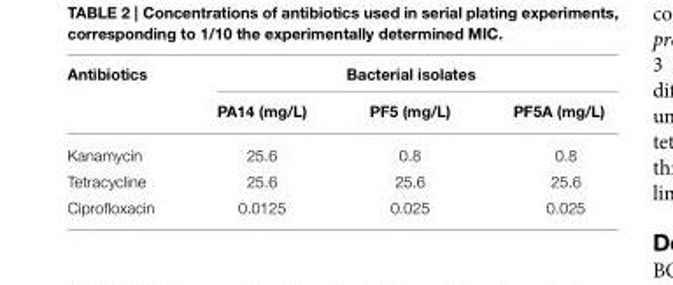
<table><thead><tr><td rowspan="2">Antibiotics</td><td colspan="3">Bacterial isolates</td></tr><tr><td>PA14 (mg/L)</td><td>PF5 (mg/L)</td><td>PF5A (mg/L)</td></tr></thead><tbody><tr><td>Kanamycin</td><td>25.6</td><td>0.8</td><td>0.8</td></tr><tr><td>Tetracycline</td><td>25.6</td><td>25.6</td><td>25.6</td></tr><tr><td>Ciprofloxacin</td><td>0.0125</td><td>0.025</td><td>0.025</td></tr></tbody></table>